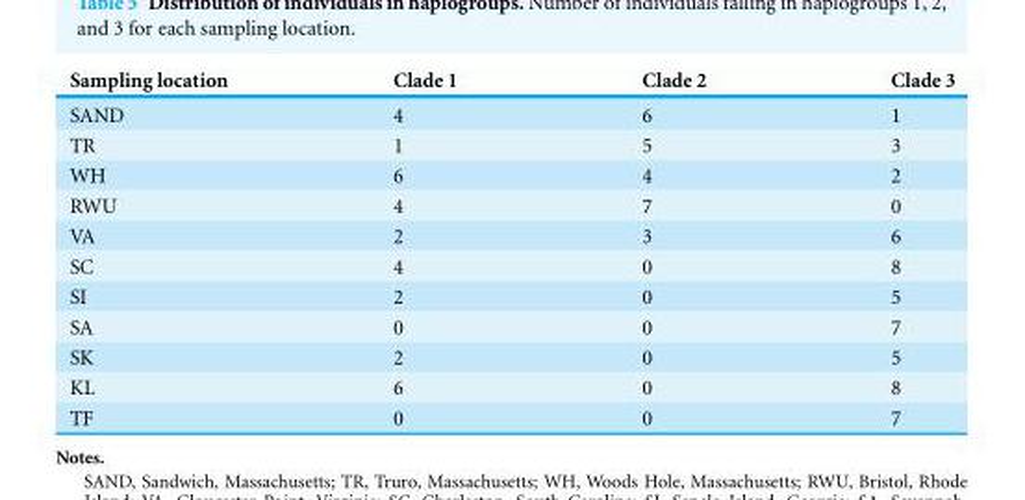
<table><thead><tr><td>Sampling location</td><td>Clade 1</td><td>Clade 2</td><td>Clade 3</td></tr></thead><tbody><tr><td>SAND</td><td>4</td><td>6</td><td>1</td></tr><tr><td>TR</td><td>1</td><td>5</td><td>3</td></tr><tr><td>WH</td><td>6</td><td>4</td><td>2</td></tr><tr><td>RWU</td><td>4</td><td>7</td><td>0</td></tr><tr><td>VA</td><td>2</td><td>3</td><td>6</td></tr><tr><td>SC</td><td>4</td><td>0</td><td>8</td></tr><tr><td>SI</td><td>2</td><td>0</td><td>5</td></tr><tr><td>SA</td><td>0</td><td>0</td><td>7</td></tr><tr><td>SK</td><td>2</td><td>0</td><td>5</td></tr><tr><td>KL</td><td>6</td><td>0</td><td>8</td></tr><tr><td>TF</td><td>0</td><td>0</td><td>7</td></tr></tbody></table>